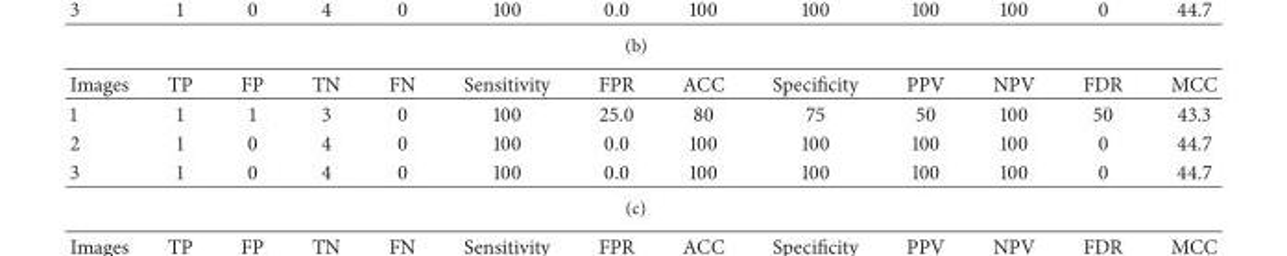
<table><thead><tr><td>Images</td><td>TP</td><td>FP</td><td>TN</td><td>FN</td><td>Sensitivity</td><td>FPR</td><td>ACC</td><td>Specificity</td><td>PPV</td><td>NPV</td><td>FDR</td><td>MCC</td></tr></thead><tbody><tr><td>1</td><td>1</td><td>1</td><td>3</td><td>0</td><td>100</td><td>25.0</td><td>80</td><td>75</td><td>50</td><td>100</td><td>50</td><td>43.3</td></tr><tr><td>2</td><td>1</td><td>0</td><td>4</td><td>0</td><td>100</td><td>0.0</td><td>100</td><td>100</td><td>100</td><td>100</td><td>0</td><td>44.7</td></tr><tr><td>3</td><td>1</td><td>0</td><td>4</td><td>0</td><td>100</td><td>0.0</td><td>100</td><td>100</td><td>100</td><td>100</td><td>0</td><td>44.7</td></tr></tbody></table>